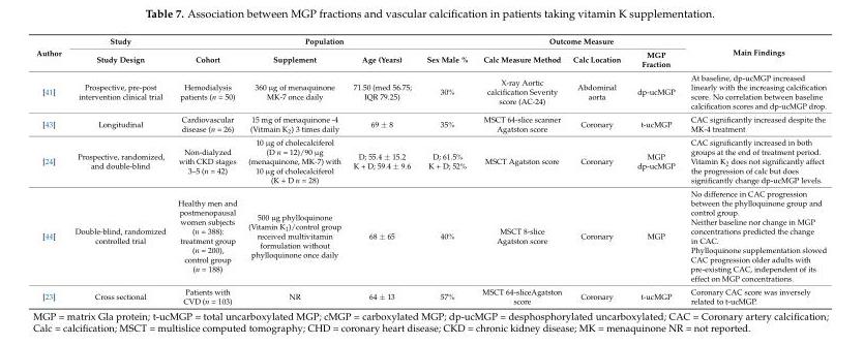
<table><thead><tr><td rowspan="2">Author</td><td rowspan="2">Study Study Design</td><td colspan="4">Population</td><td colspan="3">Outcome Measure</td><td rowspan="2">Main Findings</td></tr><tr><td>Cohort</td><td>Supplement</td><td>Age (Years)</td><td>Sex Male %</td><td>Calc Measure Method</td><td>Calc Location</td><td>MGP Fraction</td></tr></thead><tbody><tr><td>[41]</td><td>Prospective, pre-post intervention clinical trial</td><td>Hemodialysis patients (n = 50)</td><td>360 µg of menaquinone MK-7 once daily</td><td>71.50 (med 56.75; IQR 79.25)</td><td>30%</td><td>X-ray Aortic calcification Severity score (AC-24)</td><td>Abdominal aorta</td><td>dp-ucMGP</td><td>At baseline, dp-ucMGP increased linearly with the increasing calcification score. No correlation between baseline calcification scores and dp-ucMGP drop.</td></tr><tr><td>[43]</td><td>Longitudinal</td><td>Cardiovascular disease (n = 26)</td><td>15 mg of menaquinone -4 (Vitmain K<sub>2</sub>) 3 times daily</td><td>69 ± 8</td><td>35%</td><td>MSCT 64-slice scanner Agatston score</td><td>Coronary</td><td>t-ucMGP</td><td>CAC significantly increased despite the MK-4 treatment</td></tr><tr><td>[24]</td><td>Prospective, randomized, and double-blind</td><td>Non-dialyzed with CKD stages 3–5 (n = 42)</td><td>10 µg of cholecalciferol (D n = 12)/90 µg (menaquinone, MK-7) with 10 µg of cholecalciferol (K + D n = 28)</td><td>D; 55.4 ± 15.2 K + D; 59.4 ± 9.6</td><td>D; 61.5% K + D; 52%</td><td>MSCT Agatston score</td><td>Coronary</td><td>MGP dp-ucMGP</td><td>CAC significantly increased in both groups at the end of treatment period. Vitamin K<sub>2</sub> does not significantly affect the progression of calc but does significantly change dp-ucMGP levels.</td></tr><tr><td>[44]</td><td>Double-blind, randomized controlled trial</td><td>Healthy men and postmenopausal women subjects (n = 388): treatment group (n = 200), control group (n = 188)</td><td>500 µg phylloquinone (Vitamin K<sub>1</sub>)/control group received multivitamin formulation without phylloquinone once daily</td><td>68 ± 65</td><td>40%</td><td>MSCT 8-slice Agatston score</td><td>Coronary</td><td>MGP</td><td>No difference in CAC progression between the phylloquinone group and control group. Neither baseline nor change in MGP concentrations predicted the change in CAC. Phylloquinone supplementation slowed CAC progression older adults with pre-existing CAC, independent of its effect on MGP concentrations.</td></tr><tr><td>[23]</td><td>Cross sectional</td><td>Patients with CVD (n = 103)</td><td>NR</td><td>64 ± 13</td><td>57%</td><td>MSCT 64-sliceAgatston score</td><td>Coronary</td><td>t-ucMGP</td><td>Coronary CAC score was inversely related to t-ucMGP.</td></tr></tbody></table>